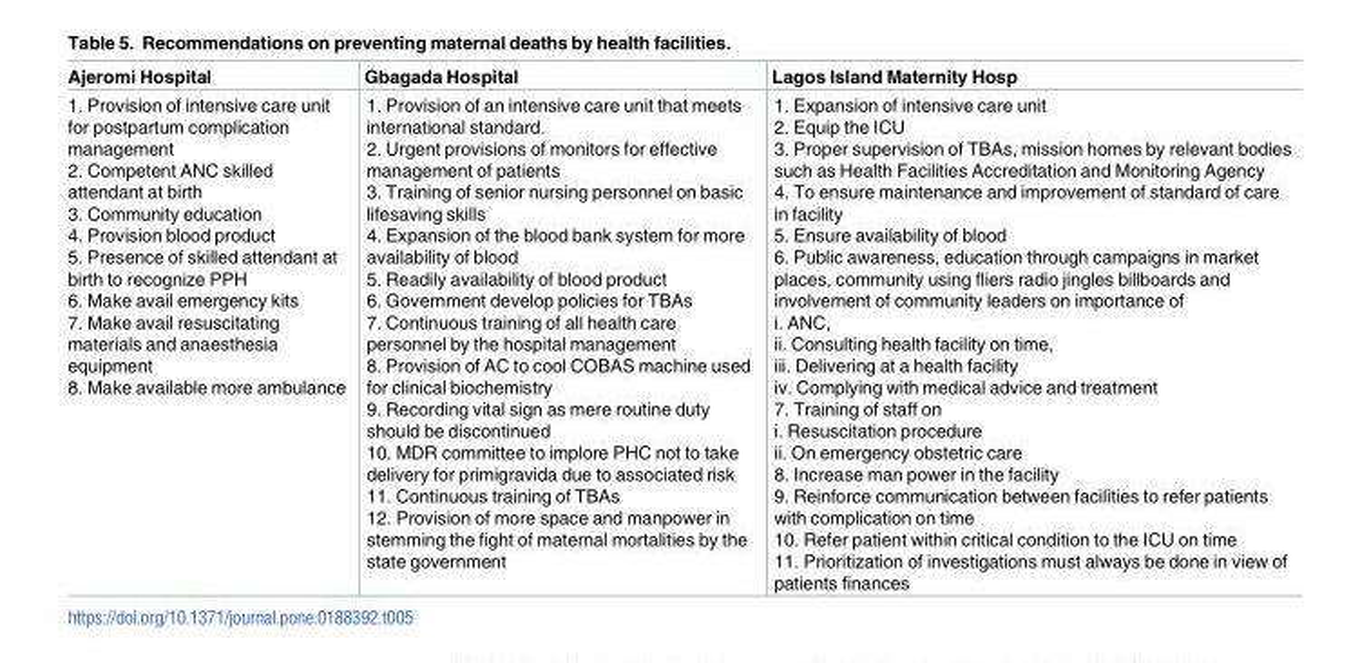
<table><thead><tr><td>Ajeromi Hospital</td><td>Gbagada Hospital</td><td>Lagos Island Maternity Hosp</td></tr></thead><tbody><tr><td>1. Provision of intensive care unit for postpartum complication management 2. Competent ANC skilled attendant at birth 3. Community education 4. Provision blood product 5. Presence of skilled attendant at birth to recognize PPH 6. Make avail emergency kits 7. Make avail resuscitating materials and anaesthesia equipment 8. Make available more ambulance</td><td>1. Provision of an intensive care unit that meets international standard. 2. Urgent provisions of monitors for effective management of patients 3. Training of senior nursing personnel on basic lifesaving skills 4. Expansion of the blood bank system for more availability of blood 5. Readily availability of blood product 6. Government develop policies for TBAs 7. Continuous training of all health care personnel by the hospital management 8. Provision of AC to cool COBAS machine used for clinical biochemistry 9. Recording vital sign as mere routine duty should be discontinued 10. MDR committee to implore PHC not to take delivery for primigravida due to associated risk 11. Continuous training of TBAs 12. Provision of more space and manpower in stemming the fight of maternal mortalities by the state government</td><td>1. Expansion of intensive care unit 2. Equip the ICU 3. Proper supervision of TBAs, mission homes by relevant bodies such as Health Facilities Accreditation and Monitoring Agency 4. To ensure maintenance and improvement of standard of care in facility 5. Ensure availability of blood 6. Public awareness, education through campaigns in market places, community using fliers radio jingles billboards and involvement of community leaders on importance of i. ANC, ii. Consulting health facility on time, iii. Delivering at a health facility iv. Complying with medical advice and treatment 7. Training of staff on i. Resuscitation procedure ii. On emergency obstetric care 8. Increase man power in the facility 9. Reinforce communication between facilities to refer patients with complication on time 10. Refer patient within critical condition to the ICU on time 11. Prioritization of investigations must always be done in view of patients finances</td></tr></tbody></table>